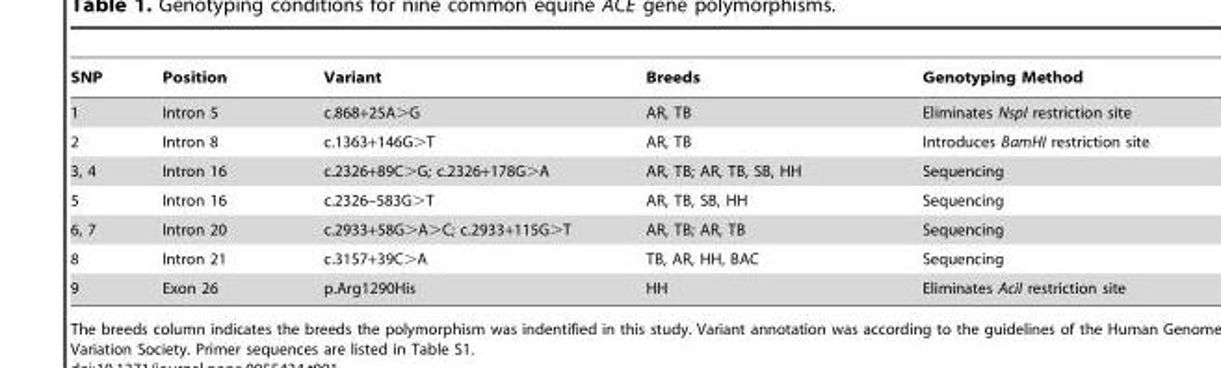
<table><thead><tr><td>SNP</td><td>Position</td><td>Variant</td><td>Breeds</td><td>Genotyping Method</td></tr></thead><tbody><tr><td>1</td><td>Intron 5</td><td>c.868+25A&gt;G</td><td>AR, TB</td><td>Eliminates NspI restriction site</td></tr><tr><td>2</td><td>Intron 8</td><td>c.1363+146G&gt;T</td><td>AR, TB</td><td>Introduces BamHI restriction site</td></tr><tr><td>3, 4</td><td>Intron 16</td><td>c.2326+89C&gt;G; c.2326+178G&gt;A</td><td>AR, TB; AR, TB, SB, HH</td><td>Sequencing</td></tr><tr><td>5</td><td>Intron 16</td><td>c.2326–583G&gt;T</td><td>AR, TB, SB, HH</td><td>Sequencing</td></tr><tr><td>6, 7</td><td>Intron 20</td><td>c.2933+58G&gt;A&gt;C; c.2933+115G&gt;T</td><td>AR, TB; AR, TB</td><td>Sequencing</td></tr><tr><td>8</td><td>Intron 21</td><td>c.3157+39C&gt;A</td><td>TB, AR, HH, BAC</td><td>Sequencing</td></tr><tr><td>9</td><td>Exon 26</td><td>p.Arg1290His</td><td>HH</td><td>Eliminates AciI restriction site</td></tr></tbody></table>